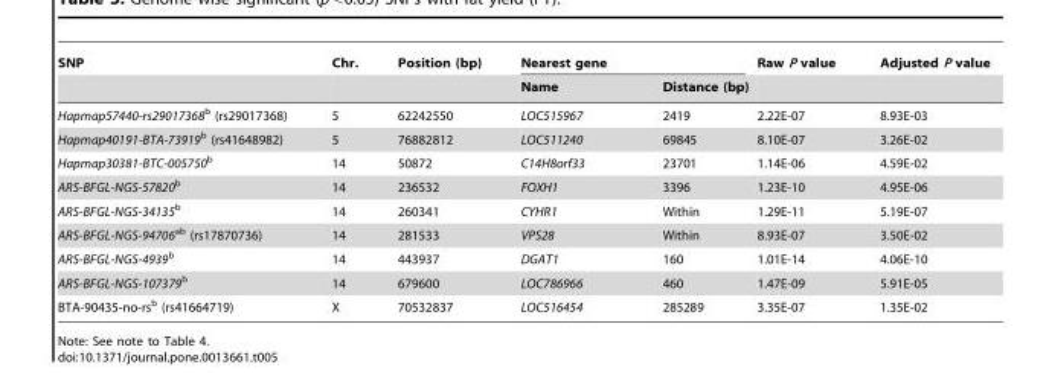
<table><thead><tr><td rowspan="2">SNP</td><td rowspan="2">Chr.</td><td rowspan="2">Position (bp)</td><td colspan="2">Nearest gene</td><td rowspan="2">Raw P value</td><td rowspan="2">Adjusted P value</td></tr><tr><td>Name</td><td>Distance (bp)</td></tr></thead><tbody><tr><td>Hapmap57440-rs29017368<sup>b</sup> (rs29017368)</td><td>5</td><td>62242550</td><td>LOC515967</td><td>2419</td><td>2.22E-07</td><td>8.93E-03</td></tr><tr><td>Hapmap40191-BTA-73919<sup>b</sup> (rs41648982)</td><td>5</td><td>76882812</td><td>LOC511240</td><td>69845</td><td>8.10E-07</td><td>3.26E-02</td></tr><tr><td>Hapmap30381-BTC-005750<sup>b</sup></td><td>14</td><td>50872</td><td>C14H8orf33</td><td>23701</td><td>1.14E-06</td><td>4.59E-02</td></tr><tr><td>ARS-BFGL-NGS-57820<sup>b</sup></td><td>14</td><td>236532</td><td>FOXH1</td><td>3396</td><td>1.23E-10</td><td>4.95E-06</td></tr><tr><td>ARS-BFGL-NGS-34135<sup>b</sup></td><td>14</td><td>260341</td><td>CYHR1</td><td>Within</td><td>1.29E-11</td><td>5.19E-07</td></tr><tr><td>ARS-BFGL-NGS-94706<sup>ab</sup> (rs17870736)</td><td>14</td><td>281533</td><td>VPS28</td><td>Within</td><td>8.93E-07</td><td>3.50E-02</td></tr><tr><td>ARS-BFGL-NGS-4939<sup>b</sup></td><td>14</td><td>443937</td><td>DGAT1</td><td>160</td><td>1.01E-14</td><td>4.06E-10</td></tr><tr><td>ARS-BFGL-NGS-107379<sup>b</sup></td><td>14</td><td>679600</td><td>LOC786966</td><td>460</td><td>1.47E-09</td><td>5.91E-05</td></tr><tr><td>BTA-90435-no-rs<sup>b</sup> (rs41664719)</td><td>X</td><td>70532837</td><td>LOC516454</td><td>285289</td><td>3.35E-07</td><td>1.35E-02</td></tr></tbody></table>